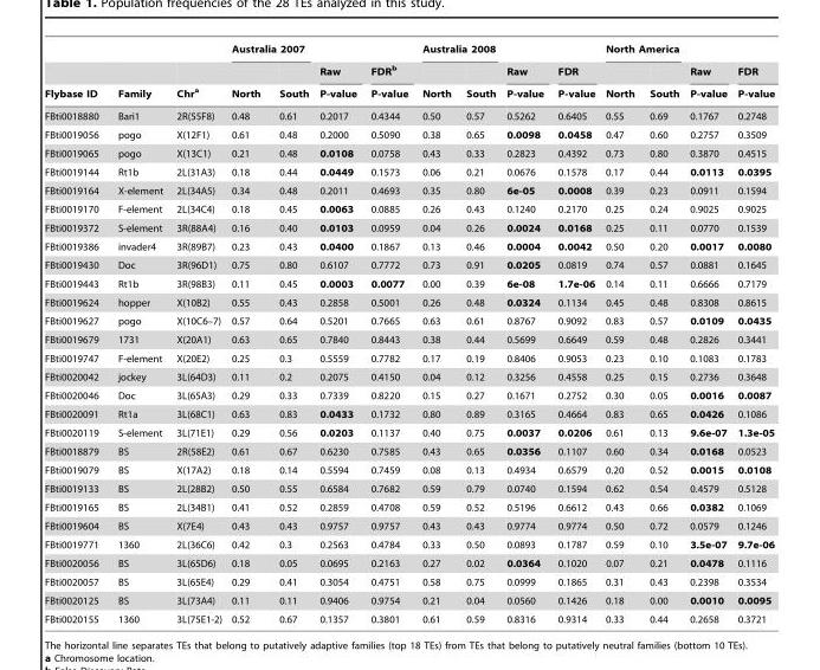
<table><thead><tr><td rowspan="3">Flybase ID</td><td rowspan="3">Family</td><td rowspan="3">Chr<sup>a</sup></td><td colspan="2">Australia 2007</td><td rowspan="3">Raw P-value</td><td rowspan="3">FDR<sup>b</sup> P-value</td><td colspan="2">Australia 2008</td><td rowspan="3">Raw P-value</td><td rowspan="3">FDR P-value</td><td colspan="2">North America</td><td rowspan="3">Raw P-value</td><td rowspan="3">FDR P-value</td></tr><tr><td rowspan="2">North</td><td rowspan="2">South</td><td rowspan="2">North</td><td rowspan="2">South</td><td rowspan="2">North</td><td rowspan="2">South</td></tr><tr></tr></thead><tbody><tr><td>FBti0018880</td><td>Bari1</td><td>2R(55F8)</td><td>0.48</td><td>0.61</td><td>0.2017</td><td>0.4344</td><td>0.50</td><td>0.57</td><td>0.5262</td><td>0.6405</td><td>0.55</td><td>0.69</td><td>0.1767</td><td>0.2748</td></tr><tr><td>FBti0019056</td><td>pogo</td><td>X(12F1)</td><td>0.61</td><td>0.48</td><td>0.2000</td><td>0.5090</td><td>0.38</td><td>0.65</td><td>0.0098</td><td>0.0458</td><td>0.47</td><td>0.60</td><td>0.2757</td><td>0.3509</td></tr><tr><td>FBti0019065</td><td>pogo</td><td>X(13C1)</td><td>0.21</td><td>0.48</td><td>0.0108</td><td>0.0758</td><td>0.43</td><td>0.33</td><td>0.2823</td><td>0.4392</td><td>0.73</td><td>0.80</td><td>0.3870</td><td>0.4515</td></tr><tr><td>FBti0019144</td><td>Rt1b</td><td>2L(31A3)</td><td>0.18</td><td>0.44</td><td>0.0449</td><td>0.1573</td><td>0.06</td><td>0.21</td><td>0.0676</td><td>0.1578</td><td>0.17</td><td>0.44</td><td>0.0113</td><td>0.0395</td></tr><tr><td>FBti0019164</td><td>X-element</td><td>2L(34A5)</td><td>0.34</td><td>0.48</td><td>0.2011</td><td>0.4693</td><td>0.35</td><td>0.80</td><td>6e-05</td><td>0.0008</td><td>0.39</td><td>0.23</td><td>0.0911</td><td>0.1594</td></tr><tr><td>FBti0019170</td><td>F-element</td><td>2L(34C4)</td><td>0.18</td><td>0.45</td><td>0.0063</td><td>0.0885</td><td>0.26</td><td>0.43</td><td>0.1240</td><td>0.2170</td><td>0.25</td><td>0.24</td><td>0.9025</td><td>0.9025</td></tr><tr><td>FBti0019372</td><td>S-element</td><td>3R(88A4)</td><td>0.16</td><td>0.40</td><td>0.0103</td><td>0.0959</td><td>0.04</td><td>0.26</td><td>0.0024</td><td>0.0168</td><td>0.25</td><td>0.11</td><td>0.0770</td><td>0.1539</td></tr><tr><td>FBti0019386</td><td>invader4</td><td>3R(89B7)</td><td>0.23</td><td>0.43</td><td>0.0400</td><td>0.1867</td><td>0.13</td><td>0.46</td><td>0.0004</td><td>0.0042</td><td>0.50</td><td>0.20</td><td>0.0017</td><td>0.0080</td></tr><tr><td>FBti0019430</td><td>Doc</td><td>3R(96D1)</td><td>0.75</td><td>0.80</td><td>0.6107</td><td>0.7772</td><td>0.73</td><td>0.91</td><td>0.0205</td><td>0.0819</td><td>0.74</td><td>0.57</td><td>0.0881</td><td>0.1645</td></tr><tr><td>FBti0019443</td><td>Rt1b</td><td>3R(98B3)</td><td>0.11</td><td>0.45</td><td>0.0003</td><td>0.0077</td><td>0.00</td><td>0.39</td><td>6e-08</td><td>1.7e-06</td><td>0.14</td><td>0.11</td><td>0.6666</td><td>0.7179</td></tr><tr><td>FBti0019624</td><td>hopper</td><td>X(10B2)</td><td>0.55</td><td>0.43</td><td>0.2858</td><td>0.5001</td><td>0.26</td><td>0.48</td><td>0.0324</td><td>0.1134</td><td>0.45</td><td>0.48</td><td>0.8308</td><td>0.8615</td></tr><tr><td>FBti0019627</td><td>pogo</td><td>X(10C6–7)</td><td>0.57</td><td>0.64</td><td>0.5201</td><td>0.7665</td><td>0.63</td><td>0.61</td><td>0.8767</td><td>0.9092</td><td>0.83</td><td>0.57</td><td>0.0109</td><td>0.0435</td></tr><tr><td>FBti0019679</td><td>1731</td><td>X(20A1)</td><td>0.63</td><td>0.65</td><td>0.7840</td><td>0.8443</td><td>0.38</td><td>0.44</td><td>0.5699</td><td>0.6649</td><td>0.59</td><td>0.48</td><td>0.2826</td><td>0.3441</td></tr><tr><td>FBti0019747</td><td>F-element</td><td>X(20E2)</td><td>0.25</td><td>0.3</td><td>0.5559</td><td>0.7782</td><td>0.17</td><td>0.19</td><td>0.8406</td><td>0.9053</td><td>0.23</td><td>0.10</td><td>0.1083</td><td>0.1783</td></tr><tr><td>FBti0020042</td><td>jockey</td><td>3L(64D3)</td><td>0.11</td><td>0.2</td><td>0.2075</td><td>0.4150</td><td>0.04</td><td>0.12</td><td>0.3256</td><td>0.4558</td><td>0.25</td><td>0.15</td><td>0.2736</td><td>0.3648</td></tr><tr><td>FBti0020046</td><td>Doc</td><td>3L(65A3)</td><td>0.29</td><td>0.33</td><td>0.7339</td><td>0.8220</td><td>0.15</td><td>0.27</td><td>0.1671</td><td>0.2752</td><td>0.30</td><td>0.05</td><td>0.0016</td><td>0.0087</td></tr><tr><td>FBti0020091</td><td>Rt1a</td><td>3L(68C1)</td><td>0.63</td><td>0.83</td><td>0.0433</td><td>0.1732</td><td>0.80</td><td>0.89</td><td>0.3165</td><td>0.4664</td><td>0.83</td><td>0.65</td><td>0.0426</td><td>0.1086</td></tr><tr><td>FBti0020119</td><td>S-element</td><td>3L(71E1)</td><td>0.29</td><td>0.56</td><td>0.0203</td><td>0.1137</td><td>0.40</td><td>0.75</td><td>0.0037</td><td>0.0206</td><td>0.61</td><td>0.13</td><td>9.6e-07</td><td>1.3e-05</td></tr><tr><td>FBti0018879</td><td>BS</td><td>2R(58E2)</td><td>0.61</td><td>0.67</td><td>0.6230</td><td>0.7585</td><td>0.43</td><td>0.65</td><td>0.0356</td><td>0.1107</td><td>0.60</td><td>0.34</td><td>0.0168</td><td>0.0523</td></tr><tr><td>FBti0019079</td><td>BS</td><td>X(17A2)</td><td>0.18</td><td>0.14</td><td>0.5594</td><td>0.7459</td><td>0.08</td><td>0.13</td><td>0.4934</td><td>0.6579</td><td>0.20</td><td>0.52</td><td>0.0015</td><td>0.0108</td></tr><tr><td>FBti0019133</td><td>BS</td><td>2L(28B2)</td><td>0.50</td><td>0.55</td><td>0.6584</td><td>0.7682</td><td>0.59</td><td>0.79</td><td>0.0740</td><td>0.1594</td><td>0.62</td><td>0.54</td><td>0.4579</td><td>0.5128</td></tr><tr><td>FBti0019165</td><td>BS</td><td>2L(34B1)</td><td>0.41</td><td>0.52</td><td>0.2859</td><td>0.4708</td><td>0.59</td><td>0.52</td><td>0.5196</td><td>0.6612</td><td>0.43</td><td>0.66</td><td>0.0382</td><td>0.1069</td></tr><tr><td>FBti0019604</td><td>BS</td><td>X(7E4)</td><td>0.43</td><td>0.43</td><td>0.9757</td><td>0.9757</td><td>0.43</td><td>0.43</td><td>0.9774</td><td>0.9774</td><td>0.50</td><td>0.72</td><td>0.0579</td><td>0.1246</td></tr><tr><td>FBti0019771</td><td>1360</td><td>2L(36C6)</td><td>0.42</td><td>0.3</td><td>0.2563</td><td>0.4784</td><td>0.33</td><td>0.50</td><td>0.0893</td><td>0.1787</td><td>0.59</td><td>0.10</td><td>3.5e-07</td><td>9.7e-06</td></tr><tr><td>FBti0020056</td><td>BS</td><td>3L(65D6)</td><td>0.18</td><td>0.05</td><td>0.0695</td><td>0.2163</td><td>0.27</td><td>0.02</td><td>0.0364</td><td>0.1020</td><td>0.07</td><td>0.21</td><td>0.0478</td><td>0.1116</td></tr><tr><td>FBti0020057</td><td>BS</td><td>3L(65E4)</td><td>0.29</td><td>0.41</td><td>0.3054</td><td>0.4751</td><td>0.58</td><td>0.75</td><td>0.0999</td><td>0.1865</td><td>0.31</td><td>0.43</td><td>0.2398</td><td>0.3534</td></tr><tr><td>FBti0020125</td><td>BS</td><td>3L(73A4)</td><td>0.11</td><td>0.11</td><td>0.9406</td><td>0.9754</td><td>0.21</td><td>0.04</td><td>0.0560</td><td>0.1426</td><td>0.18</td><td>0.00</td><td>0.0010</td><td>0.0095</td></tr><tr><td>FBti0020155</td><td>1360</td><td>3L(75E1-2)</td><td>0.52</td><td>0.67</td><td>0.1357</td><td>0.3801</td><td>0.61</td><td>0.59</td><td>0.8316</td><td>0.9314</td><td>0.33</td><td>0.44</td><td>0.2658</td><td>0.3721</td></tr></tbody></table>